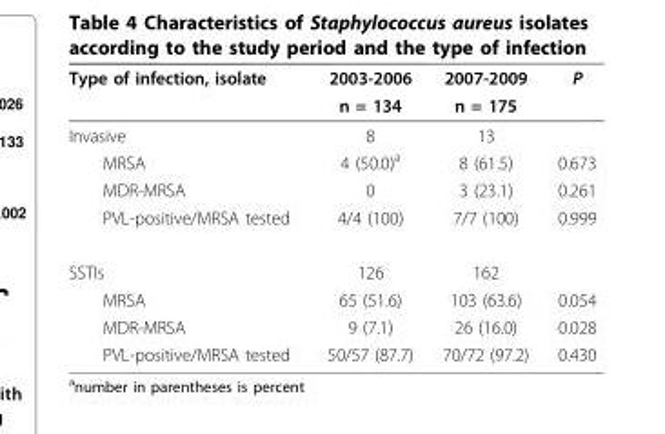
<table><thead><tr><td rowspan="2">Type of infection, isolate</td><td rowspan="2">2003-2006 n = 134</td><td rowspan="2">2007-2009 n = 175</td><td rowspan="2">P</td></tr><tr></tr></thead><tbody><tr><td>Invasive</td><td>8</td><td>13</td><td></td></tr><tr><td>MRSA</td><td>4 (50.0)<sup>a</sup></td><td>8 (61.5)</td><td>0.673</td></tr><tr><td>MDR-MRSA</td><td>0</td><td>3 (23.1)</td><td>0.261</td></tr><tr><td>PVL-positive/MRSA tested</td><td>4/4 (100)</td><td>7/7 (100)</td><td>0.999</td></tr><tr><td>SSTIs</td><td>126</td><td>162</td><td></td></tr><tr><td>MRSA</td><td>65 (51.6)</td><td>103 (63.6)</td><td>0.054</td></tr><tr><td>MDR-MRSA</td><td>9 (7.1)</td><td>26 (16.0)</td><td>0.028</td></tr><tr><td>PVL-positive/MRSA tested</td><td>50/57 (87.7)</td><td>70/72 (97.2)</td><td>0.430</td></tr></tbody></table>